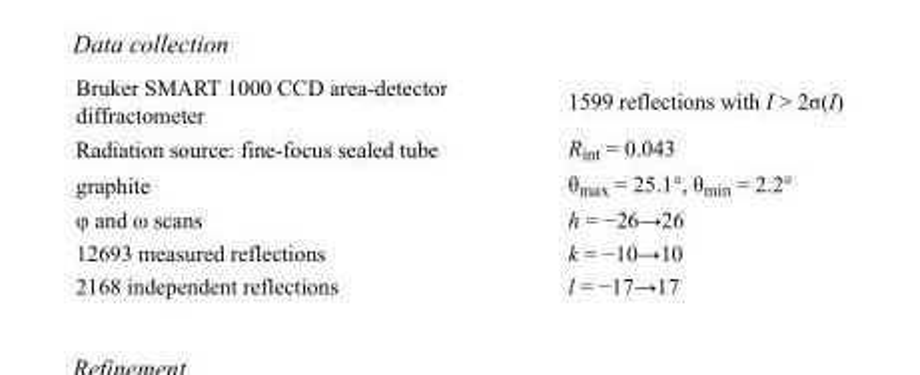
<table><tbody><tr><td>Bruker SMART 1000 CCD area-detector diffractometer</td><td>1599 reflections with I &gt; 2σ(I)</td></tr><tr><td>Radiation source: fine-focus sealed tube</td><td>R<sub>int</sub> = 0.043</td></tr><tr><td>graphite</td><td>θ<sub>max</sub> = 25.1°, θ<sub>min</sub> = 2.2°</td></tr><tr><td>φ and ω scans</td><td>h = −26→26</td></tr><tr><td>12693 measured reflections</td><td>k = −10→10</td></tr><tr><td>2168 independent reflections</td><td>l = −17→17</td></tr></tbody></table>